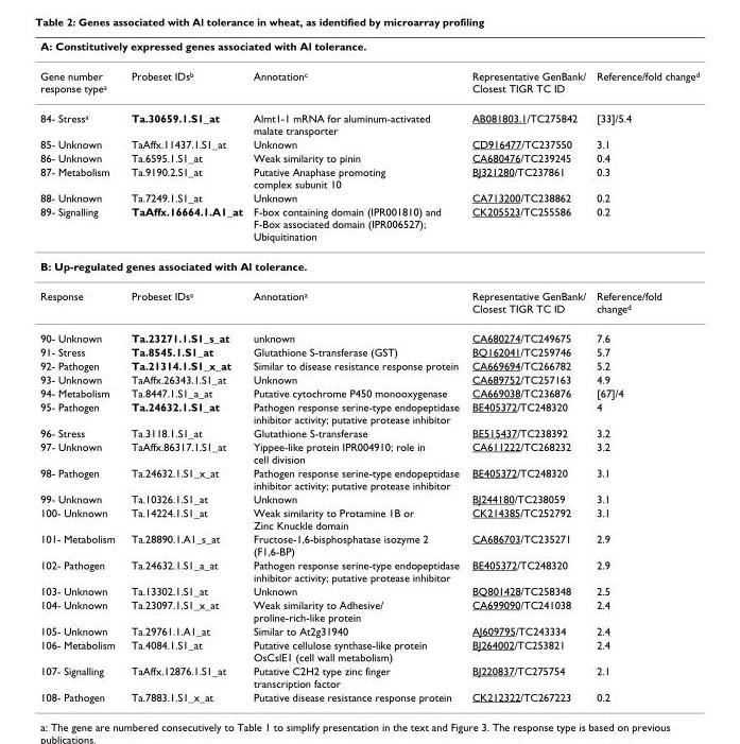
<table><thead><tr><td colspan="5">A: Constitutively expressed genes associated with Al tolerance.</td></tr><tr><td>Gene number response type<sup>a</sup></td><td>Probeset IDs<sup>b</sup></td><td>Annotation<sup>c</sup></td><td>Representative GenBank/ Closest TIGR TC ID</td><td>Reference/fold change<sup>d</sup></td></tr></thead><tbody><tr><td>84- Stress<sup>a</sup></td><td>Ta.30659.1.S1_at</td><td>Almt1-1 mRNA for aluminum-activated malate transporter</td><td>AB081803.1/TC275842</td><td>[33]/5.4</td></tr><tr><td>85- Unknown</td><td>TaAffx.11437.1.S1_at</td><td>Unknown</td><td>CD916477/TC237550</td><td>3.1</td></tr><tr><td>86- Unknown</td><td>Ta.6595.1.S1_at</td><td>Weak similarity to pinin</td><td>CA680476/TC239245</td><td>0.4</td></tr><tr><td>87- Metabolism</td><td>Ta.9190.2.S1_at</td><td>Putative Anaphase promoting complex subunit 10</td><td>BJ321280/TC237861</td><td>0.3</td></tr><tr><td>88- Unknown</td><td>Ta.7249.1.S1_at</td><td>Unknown</td><td>CA713200/TC238862</td><td>0.2</td></tr><tr><td>89- Signalling</td><td>TaAffx.16664.1.A1_at</td><td>F-box containing domain (IPR001810) and F-Box associated domain (IPR006527); Ubiquitination</td><td>CK205523/TC255586</td><td>0.2</td></tr><tr><td colspan="5">B: Up-regulated genes associated with Al tolerance.</td></tr><tr><td>Response</td><td>Probeset IDs<sup>a</sup></td><td>Annotation<sup>a</sup></td><td>Representative GenBank/ Closest TIGR TC ID</td><td>Reference/fold change<sup>d</sup></td></tr><tr><td>90- Unknown</td><td>Ta.23271.1.S1_s_at</td><td>unknown</td><td>CA680274/TC249675</td><td>7.6</td></tr><tr><td>91- Stress</td><td>Ta.8545.1.S1_at</td><td>Glutathione S-transferase (GST)</td><td>BQ162041/TC259746</td><td>5.7</td></tr><tr><td>92- Pathogen</td><td>Ta.21314.1.S1_x_at</td><td>Similar to disease resistance response protein</td><td>CA669694/TC266782</td><td>5.2</td></tr><tr><td>93- Unknown</td><td>TaAffx.26343.1.S1_at</td><td>Unknown</td><td>CA689752/TC257163</td><td>4.9</td></tr><tr><td>94- Metabolism</td><td>Ta.8447.1.S1_a_at</td><td>Putative cytochrome P450 monooxygenase</td><td>CA669038/TC236876</td><td>[67]/4</td></tr><tr><td>95- Pathogen</td><td>Ta.24632.1.S1_at</td><td>Pathogen response serine-type endopeptidase inhibitor activity; putative protease inhibitor</td><td>BE405372/TC248320</td><td>4</td></tr><tr><td>96- Stress</td><td>Ta.3118.1.S1_at</td><td>Glutathione S-transferase</td><td>BE515437/TC238392</td><td>3.2</td></tr><tr><td>97- Unknown</td><td>TaAffx.86317.1.S1_at</td><td>Yippee-like protein IPR004910; role in cell division</td><td>CA611222/TC268232</td><td>3.2</td></tr><tr><td>98- Pathogen</td><td>Ta.24632.1.S1_x_at</td><td>Pathogen response serine-type endopeptidase inhibitor activity; putative protease inhibitor</td><td>BE405372/TC248320</td><td>3.1</td></tr><tr><td>99- Unknown</td><td>Ta.10326.1.S1_at</td><td>Unknown</td><td>BJ244180/TC238059</td><td>3.1</td></tr><tr><td>100- Unknown</td><td>Ta.14224.1.S1_at</td><td>Weak similarity to Protamine 1B or Zinc Knuckle domain</td><td>CK214385/TC252792</td><td>3.1</td></tr><tr><td>101- Metabolism</td><td>Ta.28890.1.A1_s_at</td><td>Fructose-1,6-bisphosphatase isozyme 2 (F1,6-BP)</td><td>CA686703/TC235271</td><td>2.9</td></tr><tr><td>102- Pathogen</td><td>Ta.24632.1.S1_a_at</td><td>Pathogen response serine-type endopeptidase inhibitor activity; putative protease inhibitor</td><td>BE405372/TC248320</td><td>2.9</td></tr><tr><td>103- Unknown</td><td>Ta.13302.1.S1_at</td><td>Unknown</td><td>BQ801428/TC258348</td><td>2.5</td></tr><tr><td>104- Unknown</td><td>Ta.23097.1.S1_x_at</td><td>Weak similarity to Adhesive/ proline-rich-like protein</td><td>CA699090/TC241038</td><td>2.4</td></tr><tr><td>105- Unknown</td><td>Ta.29761.1.A1_at</td><td>Similar to At2g31940</td><td>AJ609795/TC243334</td><td>2.4</td></tr><tr><td>106- Metabolism</td><td>Ta.4084.1.S1_at</td><td>Putative cellulose synthase-like protein OsCslE1 (cell wall metabolism)</td><td>BJ264002/TC253821</td><td>2.4</td></tr><tr><td>107- Signalling</td><td>TaAffx.12876.1.S1_at</td><td>Putative C2H2 type zinc finger transcription factor</td><td>BJ220837/TC275754</td><td>2.1</td></tr><tr><td>108- Pathogen</td><td>Ta.7883.1.S1_x_at</td><td>Putative disease resistance response protein</td><td>CK212322/TC267223</td><td>0.2</td></tr></tbody></table>